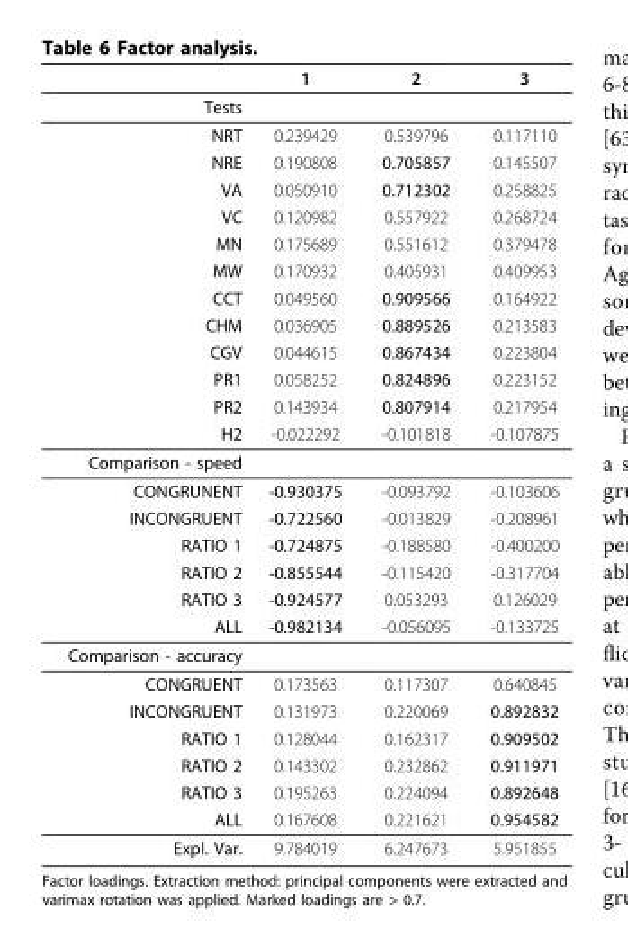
<table><thead><tr><td></td><td>1</td><td>2</td><td>3</td></tr></thead><tbody><tr><td colspan="4">Tests</td></tr><tr><td>NRT</td><td>0.239429</td><td>0.539796</td><td>0.117110</td></tr><tr><td>NRE</td><td>0.190808</td><td>0.705857</td><td>0.145507</td></tr><tr><td>VA</td><td>0.050910</td><td>0.712302</td><td>0.258825</td></tr><tr><td>VC</td><td>0.120982</td><td>0.557922</td><td>0.268724</td></tr><tr><td>MN</td><td>0.175689</td><td>0.551612</td><td>0.379478</td></tr><tr><td>MW</td><td>0.170932</td><td>0.405931</td><td>0.409953</td></tr><tr><td>CCT</td><td>0.049560</td><td>0.909566</td><td>0.164922</td></tr><tr><td>CHM</td><td>0.036905</td><td>0.889526</td><td>0.213583</td></tr><tr><td>CGV</td><td>0.044615</td><td>0.867434</td><td>0.223804</td></tr><tr><td>PR1</td><td>0.058252</td><td>0.824896</td><td>0.223152</td></tr><tr><td>PR2</td><td>0.143934</td><td>0.807914</td><td>0.217954</td></tr><tr><td>H2</td><td>-0.022292</td><td>-0.101818</td><td>-0.107875</td></tr><tr><td colspan="4">Comparison - speed</td></tr><tr><td>CONGRUNENT</td><td>-0.930375</td><td>-0.093792</td><td>-0.103606</td></tr><tr><td>INCONGRUENT</td><td>-0.722560</td><td>-0.013829</td><td>-0.208961</td></tr><tr><td>RATIO 1</td><td>-0.724875</td><td>-0.188580</td><td>-0.400200</td></tr><tr><td>RATIO 2</td><td>-0.855544</td><td>-0.115420</td><td>-0.317704</td></tr><tr><td>RATIO 3</td><td>-0.924577</td><td>0.053293</td><td>0.126029</td></tr><tr><td>ALL</td><td>-0.982134</td><td>-0.056095</td><td>-0.133725</td></tr><tr><td colspan="4">Comparison - accuracy</td></tr><tr><td>CONGRUENT</td><td>0.173563</td><td>0.117307</td><td>0.640845</td></tr><tr><td>INCONGRUENT</td><td>0.131973</td><td>0.220069</td><td>0.892832</td></tr><tr><td>RATIO 1</td><td>0.128044</td><td>0.162317</td><td>0.909502</td></tr><tr><td>RATIO 2</td><td>0.143302</td><td>0.232862</td><td>0.911971</td></tr><tr><td>RATIO 3</td><td>0.195263</td><td>0.224094</td><td>0.892648</td></tr><tr><td>ALL</td><td>0.167608</td><td>0.221621</td><td>0.954582</td></tr><tr><td>Expl. Var.</td><td>9.784019</td><td>6.247673</td><td>5.951855</td></tr></tbody></table>